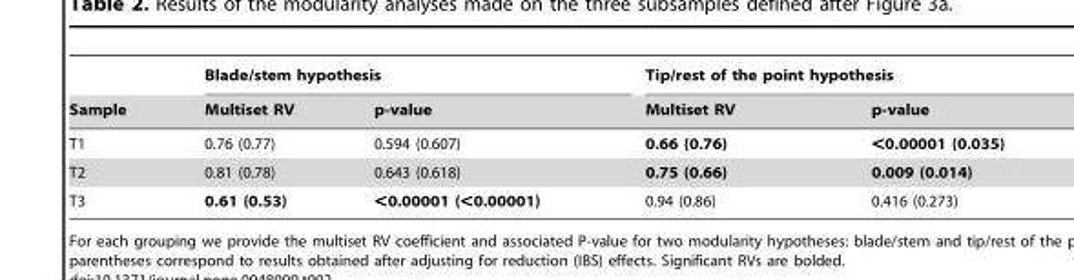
<table><thead><tr><td rowspan="2">Sample</td><td colspan="2">Blade/stem hypothesis</td><td colspan="2">Tip/rest of the point hypothesis</td></tr><tr><td>Multiset RV</td><td>p-value</td><td>Multiset RV</td><td>p-value</td></tr></thead><tbody><tr><td>T1</td><td>0.76 (0.77)</td><td>0.594 (0.607)</td><td>0.66 (0.76)</td><td>&lt;0.00001 (0.035)</td></tr><tr><td>T2</td><td>0.81 (0.78)</td><td>0.643 (0.618)</td><td>0.75 (0.66)</td><td>0.009 (0.014)</td></tr><tr><td>T3</td><td>0.61 (0.53)</td><td>&lt;0.00001 (&lt;0.00001)</td><td>0.94 (0.86)</td><td>0.416 (0.273)</td></tr></tbody></table>